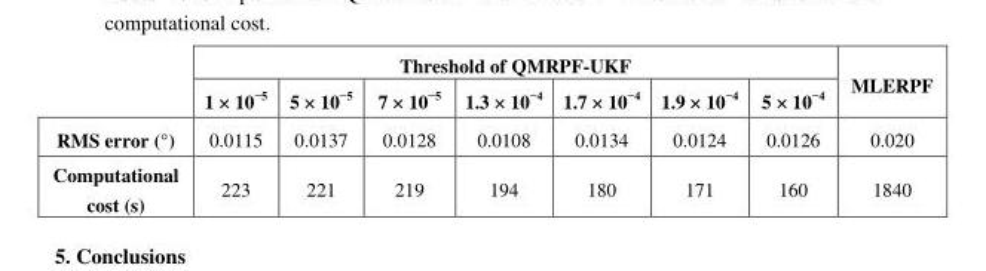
<table><thead><tr><td rowspan="2"></td><td colspan="7">Threshold of QMRPF-UKF</td><td rowspan="2">MLERPF</td></tr><tr><td>1 × 10<sup>−5</sup></td><td>5 × 10<sup>−5</sup></td><td>7 × 10<sup>−5</sup></td><td>1.3 × 10<sup>−4</sup></td><td>1.7 × 10<sup>−4</sup></td><td>1.9 × 10<sup>−4</sup></td><td>5 × 10<sup>−4</sup></td></tr></thead><tbody><tr><td>RMS error (°)</td><td>0.0115</td><td>0.0137</td><td>0.0128</td><td>0.0108</td><td>0.0134</td><td>0.0124</td><td>0.0126</td><td>0.020</td></tr><tr><td>Computational cost (s)</td><td>223</td><td>221</td><td>219</td><td>194</td><td>180</td><td>171</td><td>160</td><td>1840</td></tr></tbody></table>